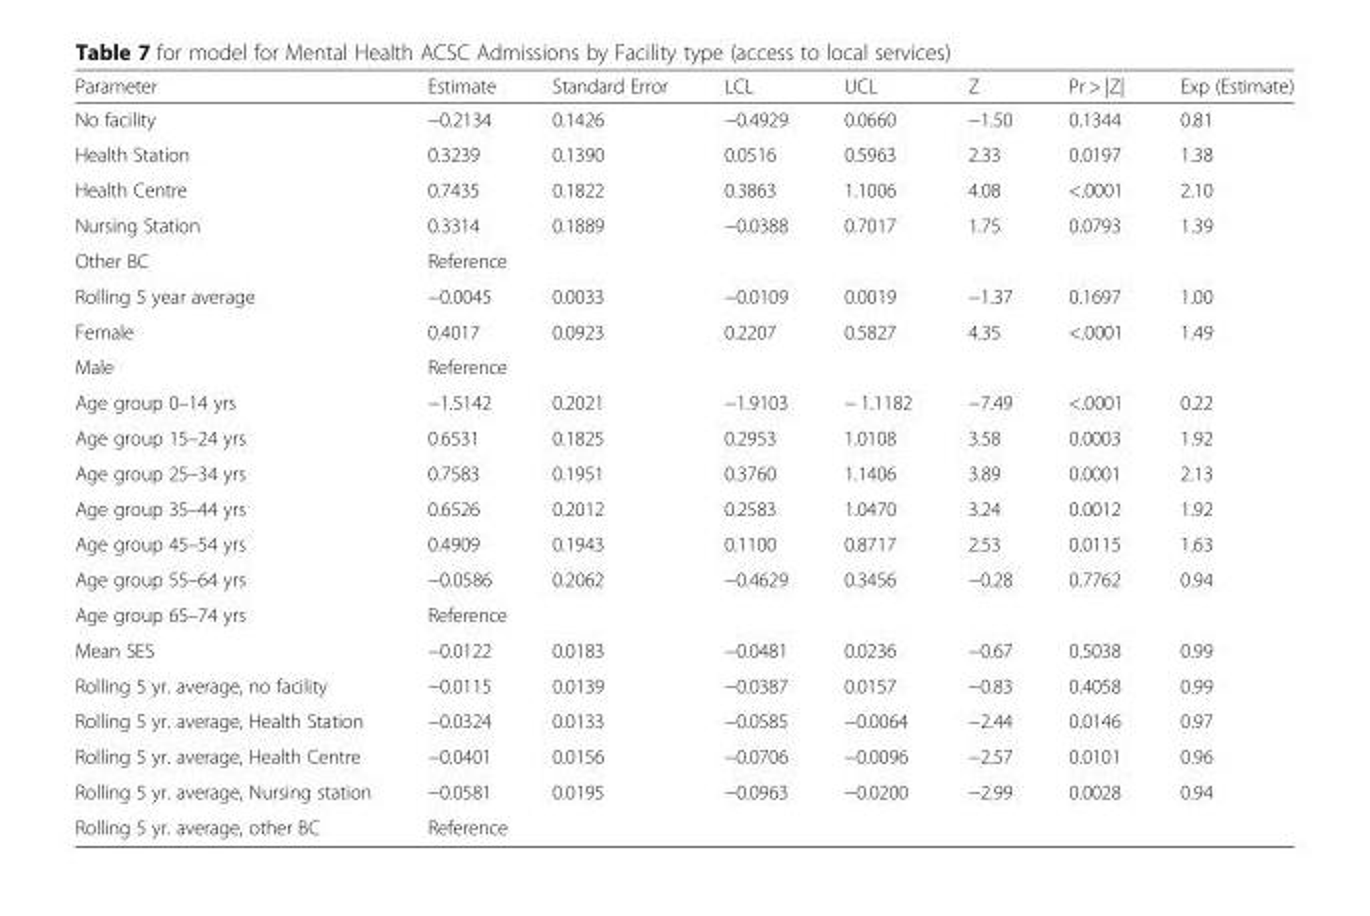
<table><thead><tr><td>Parameter</td><td>Estimate</td><td>Standard Error</td><td>LCL</td><td>UCL</td><td>Z</td><td>Pr &gt; |Z|</td><td>Exp (Estimate)</td></tr></thead><tbody><tr><td>No facility</td><td>−0.2134</td><td>0.1426</td><td>−0.4929</td><td>0.0660</td><td>−1.50</td><td>0.1344</td><td>0.81</td></tr><tr><td>Health Station</td><td>0.3239</td><td>0.1390</td><td>0.0516</td><td>0.5963</td><td>2.33</td><td>0.0197</td><td>1.38</td></tr><tr><td>Health Centre</td><td>0.7435</td><td>0.1822</td><td>0.3863</td><td>1.1006</td><td>4.08</td><td>&lt;.0001</td><td>2.10</td></tr><tr><td>Nursing Station</td><td>0.3314</td><td>0.1889</td><td>−0.0388</td><td>0.7017</td><td>1.75</td><td>0.0793</td><td>1.39</td></tr><tr><td>Other BC</td><td colspan="7">Reference</td></tr><tr><td>Rolling 5 year average</td><td>−0.0045</td><td>0.0033</td><td>−0.0109</td><td>0.0019</td><td>−1.37</td><td>0.1697</td><td>1.00</td></tr><tr><td>Female</td><td>0.4017</td><td>0.0923</td><td>0.2207</td><td>0.5827</td><td>4.35</td><td>&lt;.0001</td><td>1.49</td></tr><tr><td>Male</td><td colspan="7">Reference</td></tr><tr><td>Age group 0–14 yrs</td><td>−1.5142</td><td>0.2021</td><td>−1.9103</td><td>− 1.1182</td><td>−7.49</td><td>&lt;.0001</td><td>0.22</td></tr><tr><td>Age group 15–24 yrs</td><td>0.6531</td><td>0.1825</td><td>0.2953</td><td>1.0108</td><td>3.58</td><td>0.0003</td><td>1.92</td></tr><tr><td>Age group 25–34 yrs</td><td>0.7583</td><td>0.1951</td><td>0.3760</td><td>1.1406</td><td>3.89</td><td>0.0001</td><td>2.13</td></tr><tr><td>Age group 35–44 yrs</td><td>0.6526</td><td>0.2012</td><td>0.2583</td><td>1.0470</td><td>3.24</td><td>0.0012</td><td>1.92</td></tr><tr><td>Age group 45–54 yrs</td><td>0.4909</td><td>0.1943</td><td>0.1100</td><td>0.8717</td><td>2.53</td><td>0.0115</td><td>1.63</td></tr><tr><td>Age group 55–64 yrs</td><td>−0.0586</td><td>0.2062</td><td>−0.4629</td><td>0.3456</td><td>−0.28</td><td>0.7762</td><td>0.94</td></tr><tr><td>Age group 65–74 yrs</td><td colspan="7">Reference</td></tr><tr><td>Mean SES</td><td>−0.0122</td><td>0.0183</td><td>−0.0481</td><td>0.0236</td><td>−0.67</td><td>0.5038</td><td>0.99</td></tr><tr><td>Rolling 5 yr. average, no facility</td><td>−0.0115</td><td>0.0139</td><td>−0.0387</td><td>0.0157</td><td>−0.83</td><td>0.4058</td><td>0.99</td></tr><tr><td>Rolling 5 yr. average, Health Station</td><td>−0.0324</td><td>0.0133</td><td>−0.0585</td><td>−0.0064</td><td>−2.44</td><td>0.0146</td><td>0.97</td></tr><tr><td>Rolling 5 yr. average, Health Centre</td><td>−0.0401</td><td>0.0156</td><td>−0.0706</td><td>−0.0096</td><td>−2.57</td><td>0.0101</td><td>0.96</td></tr><tr><td>Rolling 5 yr. average, Nursing station</td><td>−0.0581</td><td>0.0195</td><td>−0.0963</td><td>−0.0200</td><td>−2.99</td><td>0.0028</td><td>0.94</td></tr><tr><td>Rolling 5 yr. average, other BC</td><td colspan="7">Reference</td></tr></tbody></table>